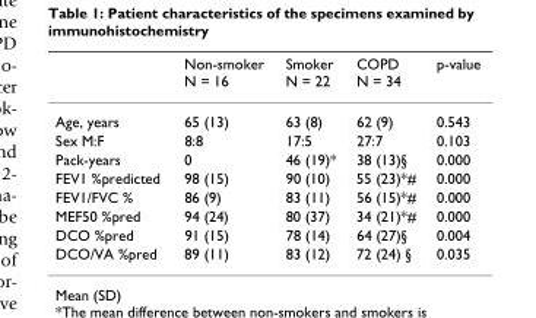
<table><thead><tr><td></td><td>Non-smoker N = 16</td><td>Smoker N = 22</td><td>COPD N = 34</td><td>p-value</td></tr></thead><tbody><tr><td>Age, years</td><td>65 (13)</td><td>63 (8)</td><td>62 (9)</td><td>0.543</td></tr><tr><td>Sex M:F</td><td>8:8</td><td>17:5</td><td>27:7</td><td>0.103</td></tr><tr><td>Pack-years</td><td>0</td><td>46 (19)*</td><td>38 (13)§</td><td>0.000</td></tr><tr><td>FEV1 %predicted</td><td>98 (15)</td><td>90 (10)</td><td>55 (23)*#</td><td>0.000</td></tr><tr><td>FEV1/FVC %</td><td>86 (9)</td><td>83 (11)</td><td>56 (15)*#</td><td>0.000</td></tr><tr><td>MEF50 %pred</td><td>94 (24)</td><td>80 (37)</td><td>34 (21)*#</td><td>0.000</td></tr><tr><td>DCO %pred</td><td>91 (15)</td><td>78 (14)</td><td>64 (27)§</td><td>0.004</td></tr><tr><td>DCO/VA %pred</td><td>89 (11)</td><td>83 (12)</td><td>72 (24) §</td><td>0.035</td></tr></tbody></table>